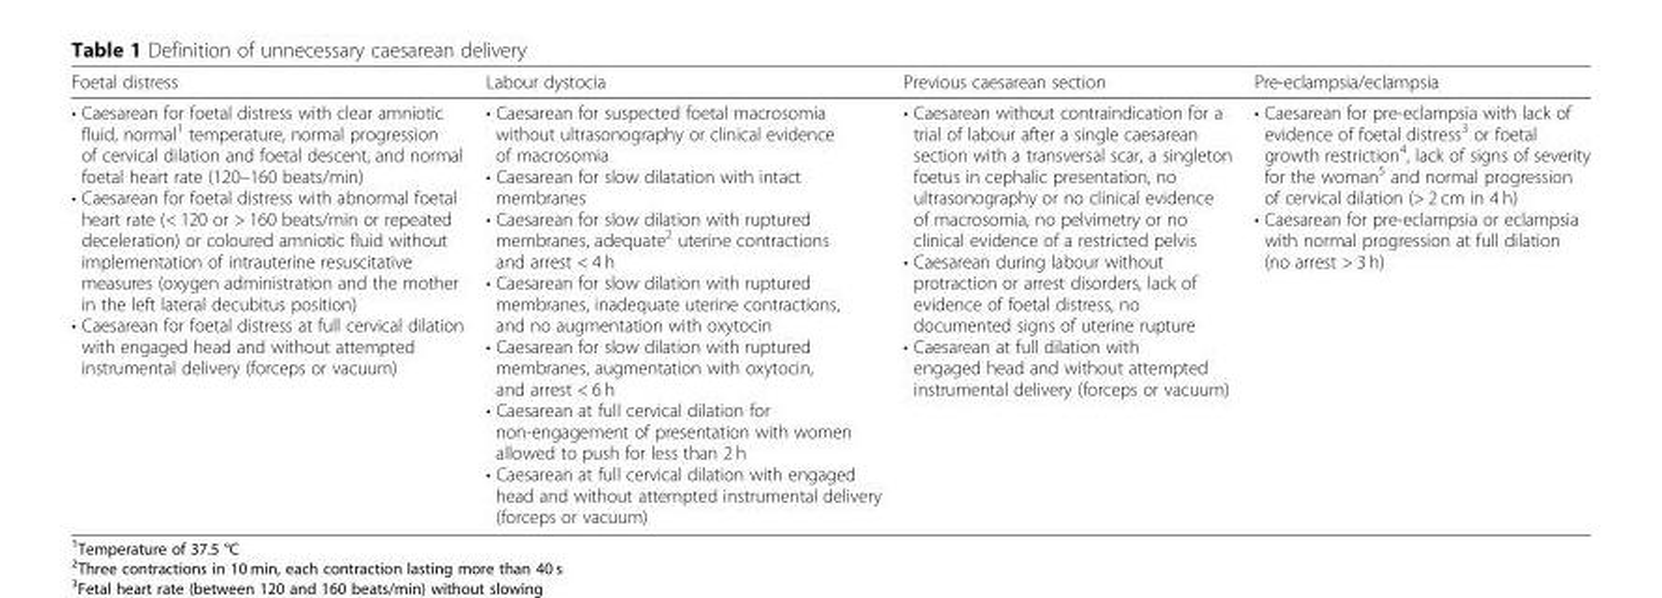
<table><thead><tr><td>Foetal distress</td><td>Labour dystocia</td><td>Previous caesarean section</td><td>Pre-eclampsia/eclampsia</td></tr></thead><tbody><tr><td>• Caesarean for foetal distress with clear amniotic fluid, normal<sup>1</sup> temperature, normal progression of cervical dilation and foetal descent, and normal foetal heart rate (120–160 beats/min) • Caesarean for foetal distress with abnormal foetal heart rate (&lt; 120 or &gt; 160 beats/min or repeated deceleration) or coloured amniotic fluid without implementation of intrauterine resuscitative measures (oxygen administration and the mother in the left lateral decubitus position) • Caesarean for foetal distress at full cervical dilation with engaged head and without attempted instrumental delivery (forceps or vacuum)</td><td>• Caesarean for suspected foetal macrosomia without ultrasonography or clinical evidence of macrosomia • Caesarean for slow dilatation with intact membranes • Caesarean for slow dilation with ruptured membranes, adequate<sup>2</sup> uterine contractions and arrest &lt; 4 h • Caesarean for slow dilation with ruptured membranes, inadequate uterine contractions, and no augmentation with oxytocin • Caesarean for slow dilation with ruptured membranes, augmentation with oxytocin, and arrest &lt; 6 h • Caesarean at full cervical dilation for non-engagement of presentation with women allowed to push for less than 2 h • Caesarean at full cervical dilation with engaged head and without attempted instrumental delivery (forceps or vacuum)</td><td>• Caesarean without contraindication for a trial of labour after a single caesarean section with a transversal scar, a singleton foetus in cephalic presentation, no ultrasonography or no clinical evidence of macrosomia, no pelvimetry or no clinical evidence of a restricted pelvis • Caesarean during labour without protraction or arrest disorders, lack of evidence of foetal distress, no documented signs of uterine rupture • Caesarean at full dilation with engaged head and without attempted instrumental delivery (forceps or vacuum)</td><td>• Caesarean for pre-eclampsia with lack of evidence of foetal distress<sup>3</sup> or foetal growth restriction<sup>4</sup>, lack of signs of severity for the woman<sup>5</sup> and normal progression of cervical dilation (&gt; 2 cm in 4 h) • Caesarean for pre-eclampsia or eclampsia with normal progression at full dilation (no arrest &gt; 3 h)</td></tr></tbody></table>